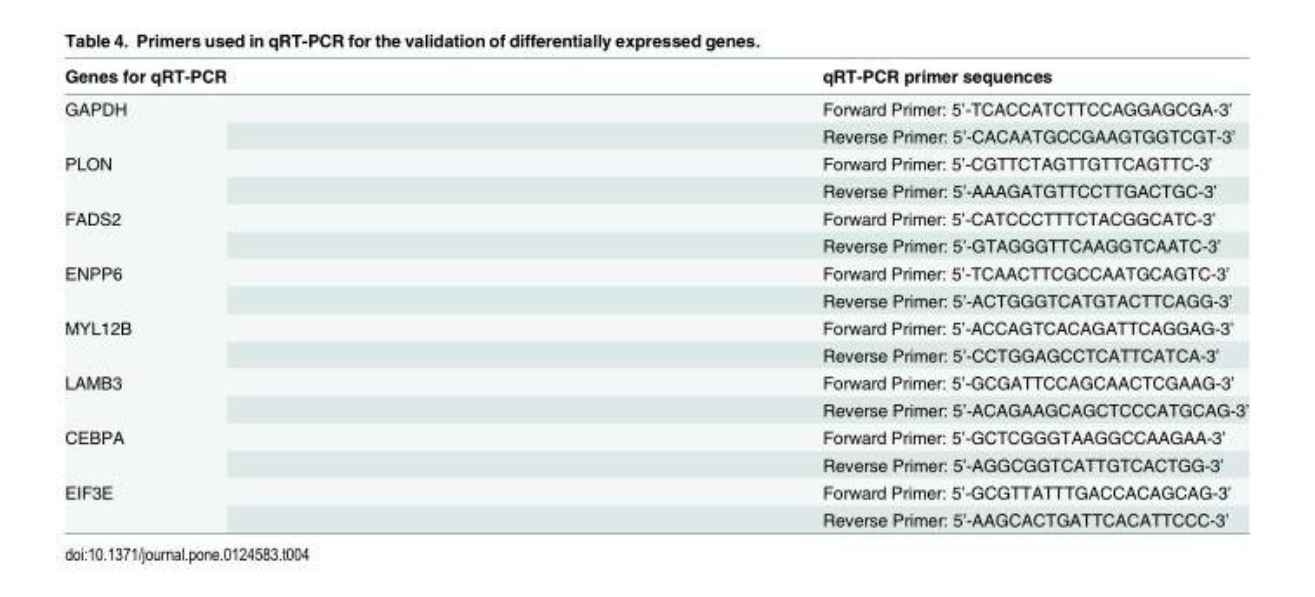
<table><thead><tr><td>Genes for qRT-PCR</td><td>qRT-PCR primer sequences</td></tr></thead><tbody><tr><td rowspan="2">GAPDH</td><td>Forward Primer: 5’-TCACCATCTTCCAGGAGCGA-3’</td></tr><tr><td>Reverse Primer: 5’-CACAATGCCGAAGTGGTCGT-3’</td></tr><tr><td rowspan="2">PLON</td><td>Forward Primer: 5’-CGTTCTAGTTGTTCAGTTC-3’</td></tr><tr><td>Reverse Primer: 5’-AAAGATGTTCCTTGACTGC-3’</td></tr><tr><td rowspan="2">FADS2</td><td>Forward Primer: 5’-CATCCCTTTCTACGGCATC-3’</td></tr><tr><td>Reverse Primer: 5’-GTAGGGTTCAAGGTCAATC-3’</td></tr><tr><td rowspan="2">ENPP6</td><td>Forward Primer: 5’-TCAACTTCGCCAATGCAGTC-3’</td></tr><tr><td>Reverse Primer: 5’-ACTGGGTCATGTACTTCAGG-3’</td></tr><tr><td rowspan="2">MYL12B</td><td>Forward Primer: 5’-ACCAGTCACAGATTCAGGAG-3’</td></tr><tr><td>Reverse Primer: 5’-CCTGGAGCCTCATTCATCA-3’</td></tr><tr><td rowspan="2">LAMB3</td><td>Forward Primer: 5’-GCGATTCCAGCAACTCGAAG-3’</td></tr><tr><td>Reverse Primer: 5’-ACAGAAGCAGCTCCCATGCAG-3’</td></tr><tr><td rowspan="2">CEBPA</td><td>Forward Primer: 5’-GCTCGGGTAAGGCCAAGAA-3’</td></tr><tr><td>Reverse Primer: 5’-AGGCGGTCATTGTCACTGG-3’</td></tr><tr><td rowspan="2">EIF3E</td><td>Forward Primer: 5’-GCGTTATTTGACCACAGCAG-3’</td></tr><tr><td>Reverse Primer: 5’-AAGCACTGATTCACATTCCC-3’</td></tr></tbody></table>